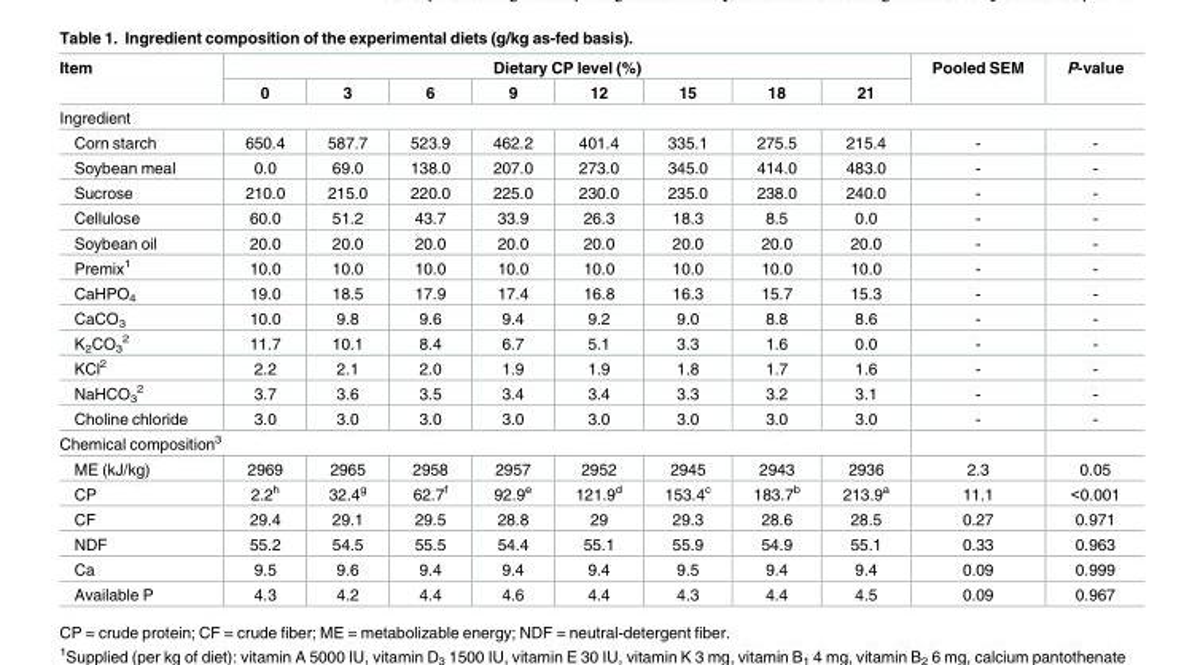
<table><thead><tr><td rowspan="2">Item</td><td colspan="8">Dietary CP level (%)</td><td rowspan="2">Pooled SEM</td><td rowspan="2">P-value</td></tr><tr><td>0</td><td>3</td><td>6</td><td>9</td><td>12</td><td>15</td><td>18</td><td>21</td></tr></thead><tbody><tr><td colspan="11">Ingredient</td></tr><tr><td>Corn starch</td><td>650.4</td><td>587.7</td><td>523.9</td><td>462.2</td><td>401.4</td><td>335.1</td><td>275.5</td><td>215.4</td><td>-</td><td>-</td></tr><tr><td>Soybean meal</td><td>0.0</td><td>69.0</td><td>138.0</td><td>207.0</td><td>273.0</td><td>345.0</td><td>414.0</td><td>483.0</td><td>-</td><td>-</td></tr><tr><td>Sucrose</td><td>210.0</td><td>215.0</td><td>220.0</td><td>225.0</td><td>230.0</td><td>235.0</td><td>238.0</td><td>240.0</td><td>-</td><td>-</td></tr><tr><td>Cellulose</td><td>60.0</td><td>51.2</td><td>43.7</td><td>33.9</td><td>26.3</td><td>18.3</td><td>8.5</td><td>0.0</td><td>-</td><td>-</td></tr><tr><td>Soybean oil</td><td>20.0</td><td>20.0</td><td>20.0</td><td>20.0</td><td>20.0</td><td>20.0</td><td>20.0</td><td>20.0</td><td>-</td><td>-</td></tr><tr><td>Premix<sup>1</sup></td><td>10.0</td><td>10.0</td><td>10.0</td><td>10.0</td><td>10.0</td><td>10.0</td><td>10.0</td><td>10.0</td><td>-</td><td>-</td></tr><tr><td>CaHPO<sub>4</sub></td><td>19.0</td><td>18.5</td><td>17.9</td><td>17.4</td><td>16.8</td><td>16.3</td><td>15.7</td><td>15.3</td><td>-</td><td>-</td></tr><tr><td>CaCO<sub>3</sub></td><td>10.0</td><td>9.8</td><td>9.6</td><td>9.4</td><td>9.2</td><td>9.0</td><td>8.8</td><td>8.6</td><td>-</td><td>-</td></tr><tr><td>K<sub>2</sub>CO<sub>3</sub> <sup>2</sup></td><td>11.7</td><td>10.1</td><td>8.4</td><td>6.7</td><td>5.1</td><td>3.3</td><td>1.6</td><td>0.0</td><td>-</td><td>-</td></tr><tr><td>KCl<sup>2</sup></td><td>2.2</td><td>2.1</td><td>2.0</td><td>1.9</td><td>1.9</td><td>1.8</td><td>1.7</td><td>1.6</td><td>-</td><td>-</td></tr><tr><td>NaHCO<sub>3</sub> <sup>2</sup></td><td>3.7</td><td>3.6</td><td>3.5</td><td>3.4</td><td>3.4</td><td>3.3</td><td>3.2</td><td>3.1</td><td>-</td><td>-</td></tr><tr><td>Choline chloride</td><td>3.0</td><td>3.0</td><td>3.0</td><td>3.0</td><td>3.0</td><td>3.0</td><td>3.0</td><td>3.0</td><td>-</td><td>-</td></tr><tr><td colspan="11">Chemical composition<sup>3</sup></td></tr><tr><td>ME (kJ/kg)</td><td>2969</td><td>2965</td><td>2958</td><td>2957</td><td>2952</td><td>2945</td><td>2943</td><td>2936</td><td>2.3</td><td>0.05</td></tr><tr><td>CP</td><td>2.2<sup>h</sup></td><td>32.4<sup>g</sup></td><td>62.7<sup>f</sup></td><td>92.9<sup>e</sup></td><td>121.9<sup>d</sup></td><td>153.4<sup>c</sup></td><td>183.7<sup>b</sup></td><td>213.9<sup>a</sup></td><td>11.1</td><td>&lt;0.001</td></tr><tr><td>CF</td><td>29.4</td><td>29.1</td><td>29.5</td><td>28.8</td><td>29</td><td>29.3</td><td>28.6</td><td>28.5</td><td>0.27</td><td>0.971</td></tr><tr><td>NDF</td><td>55.2</td><td>54.5</td><td>55.5</td><td>54.4</td><td>55.1</td><td>55.9</td><td>54.9</td><td>55.1</td><td>0.33</td><td>0.963</td></tr><tr><td>Ca</td><td>9.5</td><td>9.6</td><td>9.4</td><td>9.4</td><td>9.4</td><td>9.5</td><td>9.4</td><td>9.4</td><td>0.09</td><td>0.999</td></tr><tr><td>Available P</td><td>4.3</td><td>4.2</td><td>4.4</td><td>4.6</td><td>4.4</td><td>4.3</td><td>4.4</td><td>4.5</td><td>0.09</td><td>0.967</td></tr></tbody></table>